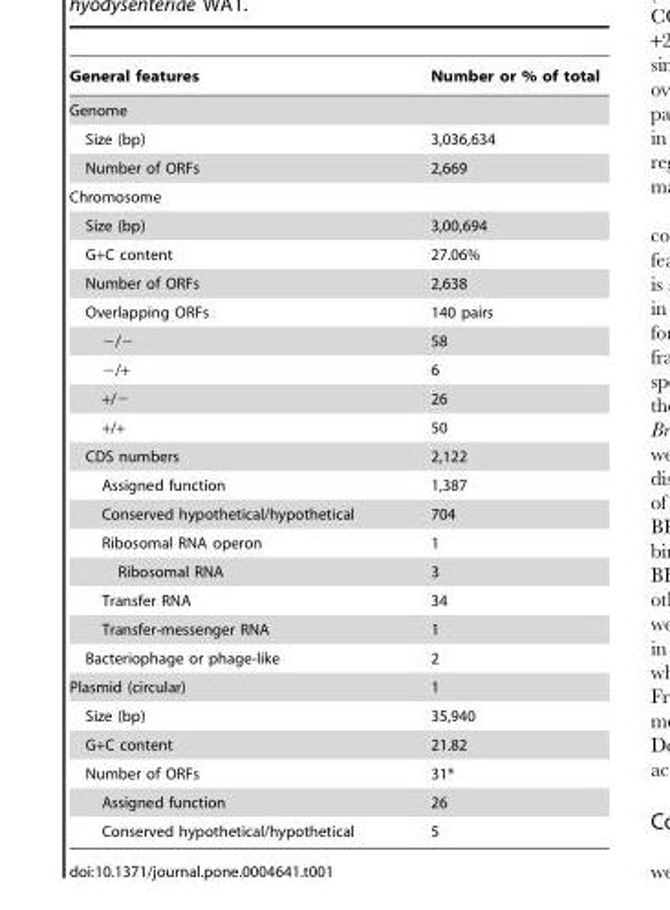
<table><thead><tr><td>General features</td><td>Number or % of total</td></tr></thead><tbody><tr><td colspan="2">Genome</td></tr><tr><td>Size (bp)</td><td>3,036,634</td></tr><tr><td>Number of ORFs</td><td>2,669</td></tr><tr><td colspan="2">Chromosome</td></tr><tr><td>Size (bp)</td><td>3,00,694</td></tr><tr><td>G+C content</td><td>27.06%</td></tr><tr><td>Number of ORFs</td><td>2,638</td></tr><tr><td>Overlapping ORFs</td><td>140 pairs</td></tr><tr><td>−/−</td><td>58</td></tr><tr><td>−/+</td><td>6</td></tr><tr><td>+/−</td><td>26</td></tr><tr><td>+/+</td><td>50</td></tr><tr><td>CDS numbers</td><td>2,122</td></tr><tr><td>Assigned function</td><td>1,387</td></tr><tr><td>Conserved hypothetical/hypothetical</td><td>704</td></tr><tr><td>Ribosomal RNA operon</td><td>1</td></tr><tr><td>Ribosomal RNA</td><td>3</td></tr><tr><td>Transfer RNA</td><td>34</td></tr><tr><td>Transfer-messenger RNA</td><td>1</td></tr><tr><td>Bacteriophage or phage-like</td><td>2</td></tr><tr><td>Plasmid (circular)</td><td>1</td></tr><tr><td>Size (bp)</td><td>35,940</td></tr><tr><td>G+C content</td><td>21.82</td></tr><tr><td>Number of ORFs</td><td>31*</td></tr><tr><td>Assigned function</td><td>26</td></tr><tr><td>Conserved hypothetical/hypothetical</td><td>5</td></tr></tbody></table>